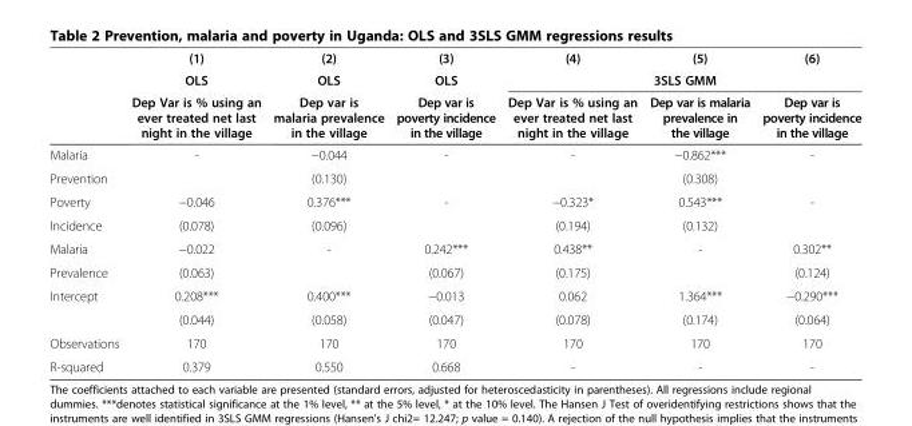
<table><thead><tr><td rowspan="3"></td><td rowspan="3">(1) OLS Dep Var is % using an ever treated net last night in the village</td><td rowspan="3">(2) OLS Dep var is malaria prevalence in the village</td><td rowspan="3">(3) OLS Dep var is poverty incidence in the village</td><td>(4)</td><td>(5)</td><td>(6)</td></tr><tr><td colspan="3">3SLS GMM</td></tr><tr><td>Dep Var is % using an ever treated net last night in the village</td><td>Dep var is malaria prevalence in the village</td><td>Dep var is poverty incidence in the village</td></tr></thead><tbody><tr><td>Malaria</td><td>-</td><td>−0.044</td><td>-</td><td>-</td><td>−0.862***</td><td>-</td></tr><tr><td>Prevention</td><td></td><td>(0.130)</td><td></td><td></td><td>(0.308)</td><td></td></tr><tr><td>Poverty</td><td>−0.046</td><td>0.376***</td><td>-</td><td>−0.323*</td><td>0.543***</td><td>-</td></tr><tr><td>Incidence</td><td>(0.078)</td><td>(0.096)</td><td></td><td>(0.194)</td><td>(0.132)</td><td></td></tr><tr><td>Malaria</td><td>−0.022</td><td>-</td><td>0.242***</td><td>0.438**</td><td>-</td><td>0.302**</td></tr><tr><td>Prevalence</td><td>(0.063)</td><td></td><td>(0.067)</td><td>(0.175)</td><td></td><td>(0.124)</td></tr><tr><td rowspan="2">Intercept</td><td>0.208***</td><td>0.400***</td><td>−0.013</td><td>0.062</td><td>1.364***</td><td>−0.290***</td></tr><tr><td>(0.044)</td><td>(0.058)</td><td>(0.047)</td><td>(0.078)</td><td>(0.174)</td><td>(0.064)</td></tr><tr><td>Observations</td><td>170</td><td>170</td><td>170</td><td>170</td><td>170</td><td>170</td></tr><tr><td>R-squared</td><td>0.379</td><td>0.550</td><td>0.668</td><td>-</td><td>-</td><td>-</td></tr></tbody></table>